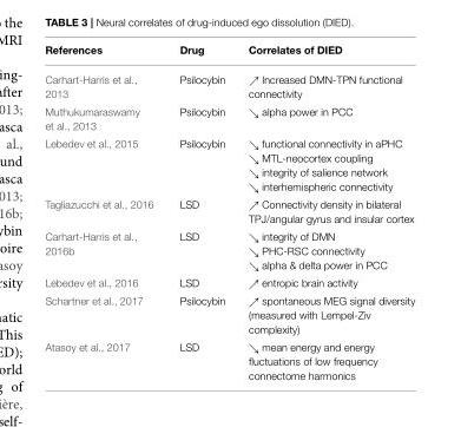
<table><thead><tr><td>References</td><td>Drug</td><td>Correlates of DIED</td></tr></thead><tbody><tr><td>Carhart-Harris et al., 2013</td><td>Psilocybin</td><td>ր Increased DMN-TPN functional connectivity</td></tr><tr><td>Muthukumaraswamy et al., 2013</td><td>Psilocybin</td><td>ց alpha power in PCC</td></tr><tr><td>Lebedev et al., 2015</td><td>Psilocybin</td><td>ց functional connectivity in aPHC ց MTL-neocortex coupling ց integrity of salience network ց interhemispheric connectivity</td></tr><tr><td>Tagliazucchi et al., 2016</td><td>LSD</td><td>ր Connectivity density in bilateral TPJ/angular gyrus and insular cortex</td></tr><tr><td>Carhart-Harris et al., 2016b</td><td>LSD</td><td>ց integrity of DMN ց PHC-RSC connectivity ց alpha &amp; delta power in PCC</td></tr><tr><td>Lebedev et al., 2016</td><td>LSD</td><td>ր entropic brain activity</td></tr><tr><td>Schartner et al., 2017</td><td>Psilocybin</td><td>ր spontaneous MEG signal diversity (measured with Lempel-Ziv complexity)</td></tr><tr><td>Atasoy et al., 2017</td><td>LSD</td><td>ց mean energy and energy fluctuations of low frequency connectome harmonics</td></tr></tbody></table>